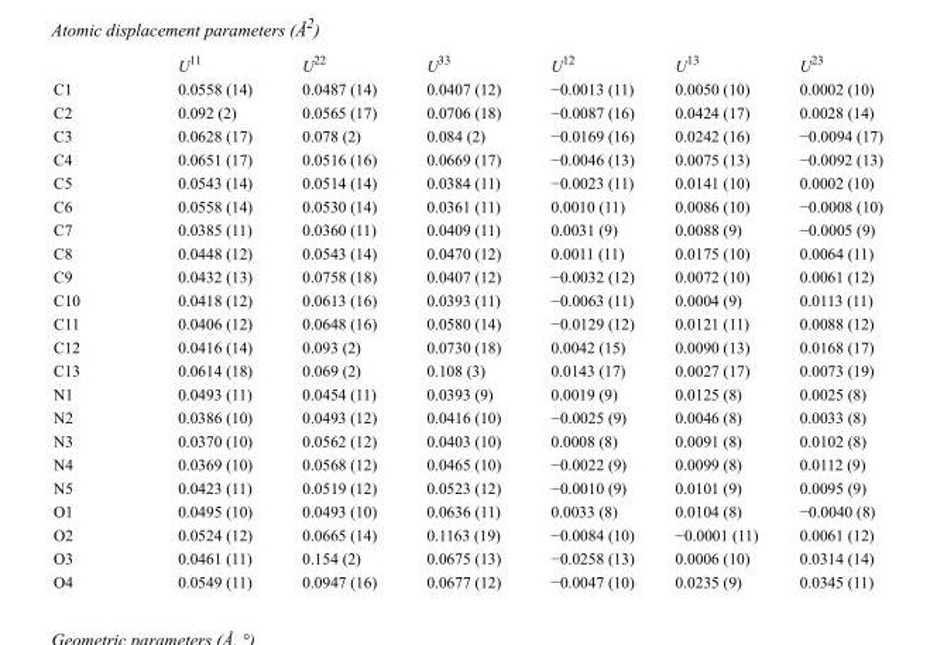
<table><thead><tr><td></td><td>U<sup>11</sup></td><td>U<sup>22</sup></td><td>U<sup>33</sup></td><td>U<sup>12</sup></td><td>U<sup>13</sup></td><td>U<sup>23</sup></td></tr></thead><tbody><tr><td>C1</td><td>0.0558 (14)</td><td>0.0487 (14)</td><td>0.0407 (12)</td><td>−0.0013 (11)</td><td>0.0050 (10)</td><td>0.0002 (10)</td></tr><tr><td>C2</td><td>0.092 (2)</td><td>0.0565 (17)</td><td>0.0706 (18)</td><td>−0.0087 (16)</td><td>0.0424 (17)</td><td>0.0028 (14)</td></tr><tr><td>C3</td><td>0.0628 (17)</td><td>0.078 (2)</td><td>0.084 (2)</td><td>−0.0169 (16)</td><td>0.0242 (16)</td><td>−0.0094 (17)</td></tr><tr><td>C4</td><td>0.0651 (17)</td><td>0.0516 (16)</td><td>0.0669 (17)</td><td>−0.0046 (13)</td><td>0.0075 (13)</td><td>−0.0092 (13)</td></tr><tr><td>C5</td><td>0.0543 (14)</td><td>0.0514 (14)</td><td>0.0384 (11)</td><td>−0.0023 (11)</td><td>0.0141 (10)</td><td>0.0002 (10)</td></tr><tr><td>C6</td><td>0.0558 (14)</td><td>0.0530 (14)</td><td>0.0361 (11)</td><td>0.0010 (11)</td><td>0.0086 (10)</td><td>−0.0008 (10)</td></tr><tr><td>C7</td><td>0.0385 (11)</td><td>0.0360 (11)</td><td>0.0409 (11)</td><td>0.0031 (9)</td><td>0.0088 (9)</td><td>−0.0005 (9)</td></tr><tr><td>C8</td><td>0.0448 (12)</td><td>0.0543 (14)</td><td>0.0470 (12)</td><td>0.0011 (11)</td><td>0.0175 (10)</td><td>0.0064 (11)</td></tr><tr><td>C9</td><td>0.0432 (13)</td><td>0.0758 (18)</td><td>0.0407 (12)</td><td>−0.0032 (12)</td><td>0.0072 (10)</td><td>0.0061 (12)</td></tr><tr><td>C10</td><td>0.0418 (12)</td><td>0.0613 (16)</td><td>0.0393 (11)</td><td>−0.0063 (11)</td><td>0.0004 (9)</td><td>0.0113 (11)</td></tr><tr><td>C11</td><td>0.0406 (12)</td><td>0.0648 (16)</td><td>0.0580 (14)</td><td>−0.0129 (12)</td><td>0.0121 (11)</td><td>0.0088 (12)</td></tr><tr><td>C12</td><td>0.0416 (14)</td><td>0.093 (2)</td><td>0.0730 (18)</td><td>0.0042 (15)</td><td>0.0090 (13)</td><td>0.0168 (17)</td></tr><tr><td>C13</td><td>0.0614 (18)</td><td>0.069 (2)</td><td>0.108 (3)</td><td>0.0143 (17)</td><td>0.0027 (17)</td><td>0.0073 (19)</td></tr><tr><td>N1</td><td>0.0493 (11)</td><td>0.0454 (11)</td><td>0.0393 (9)</td><td>0.0019 (9)</td><td>0.0125 (8)</td><td>0.0025 (8)</td></tr><tr><td>N2</td><td>0.0386 (10)</td><td>0.0493 (12)</td><td>0.0416 (10)</td><td>−0.0025 (9)</td><td>0.0046 (8)</td><td>0.0033 (8)</td></tr><tr><td>N3</td><td>0.0370 (10)</td><td>0.0562 (12)</td><td>0.0403 (10)</td><td>0.0008 (8)</td><td>0.0091 (8)</td><td>0.0102 (8)</td></tr><tr><td>N4</td><td>0.0369 (10)</td><td>0.0568 (12)</td><td>0.0465 (10)</td><td>−0.0022 (9)</td><td>0.0099 (8)</td><td>0.0112 (9)</td></tr><tr><td>N5</td><td>0.0423 (11)</td><td>0.0519 (12)</td><td>0.0523 (12)</td><td>−0.0010 (9)</td><td>0.0101 (9)</td><td>0.0095 (9)</td></tr><tr><td>O1</td><td>0.0495 (10)</td><td>0.0493 (10)</td><td>0.0636 (11)</td><td>0.0033 (8)</td><td>0.0104 (8)</td><td>−0.0040 (8)</td></tr><tr><td>O2</td><td>0.0524 (12)</td><td>0.0665 (14)</td><td>0.1163 (19)</td><td>−0.0084 (10)</td><td>−0.0001 (11)</td><td>0.0061 (12)</td></tr><tr><td>O3</td><td>0.0461 (11)</td><td>0.154 (2)</td><td>0.0675 (13)</td><td>−0.0258 (13)</td><td>0.0006 (10)</td><td>0.0314 (14)</td></tr><tr><td>O4</td><td>0.0549 (11)</td><td>0.0947 (16)</td><td>0.0677 (12)</td><td>−0.0047 (10)</td><td>0.0235 (9)</td><td>0.0345 (11)</td></tr></tbody></table>